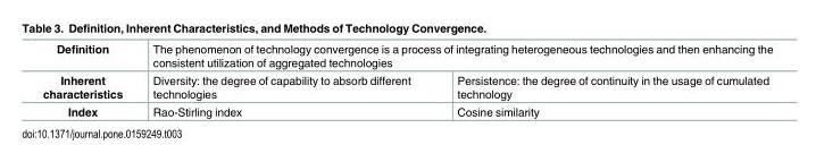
<table><tbody><tr><td>Definition</td><td colspan="2">The phenomenon of technology convergence is a process of integrating heterogeneous technologies and then enhancing the consistent utilization of aggregated technologies</td></tr><tr><td>Inherent characteristics</td><td>Diversity: the degree of capability to absorb different technologies</td><td>Persistence: the degree of continuity in the usage of cumulated technology</td></tr><tr><td>Index</td><td>Rao-Stirling index</td><td>Cosine similarity</td></tr></tbody></table>